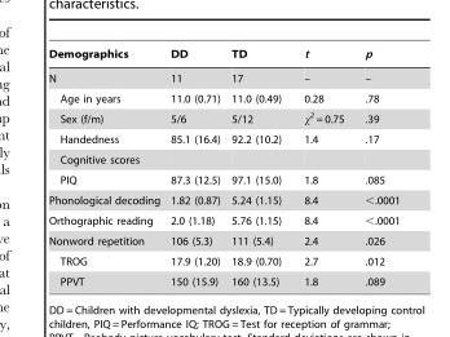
<table><thead><tr><td>Demographics</td><td>DD</td><td>TD</td><td>t</td><td>p</td></tr></thead><tbody><tr><td>N</td><td>11</td><td>17</td><td>–</td><td>–</td></tr><tr><td>Age in years</td><td>11.0 (0.71)</td><td>11.0 (0.49)</td><td>0.28</td><td>.78</td></tr><tr><td>Sex (f/m)</td><td>5/6</td><td>5/12</td><td>χ<sup>2</sup> = 0.75</td><td>.39</td></tr><tr><td>Handedness</td><td>85.1 (16.4)</td><td>92.2 (10.2)</td><td>1.4</td><td>.17</td></tr><tr><td colspan="5">Cognitive scores</td></tr><tr><td>PIQ</td><td>87.3 (12.5)</td><td>97.1 (15.0)</td><td>1.8</td><td>.085</td></tr><tr><td>Phonological decoding</td><td>1.82 (0.87)</td><td>5.24 (1.15)</td><td>8.4</td><td>&lt;.0001</td></tr><tr><td>Orthographic reading</td><td>2.0 (1.18)</td><td>5.76 (1.15)</td><td>8.4</td><td>&lt;.0001</td></tr><tr><td>Nonword repetition</td><td>106 (5.3)</td><td>111 (5.4)</td><td>2.4</td><td>.026</td></tr><tr><td>TROG</td><td>17.9 (1.20)</td><td>18.9 (0.70)</td><td>2.7</td><td>.012</td></tr><tr><td>PPVT</td><td>150 (15.9)</td><td>160 (13.5)</td><td>1.8</td><td>.089</td></tr></tbody></table>